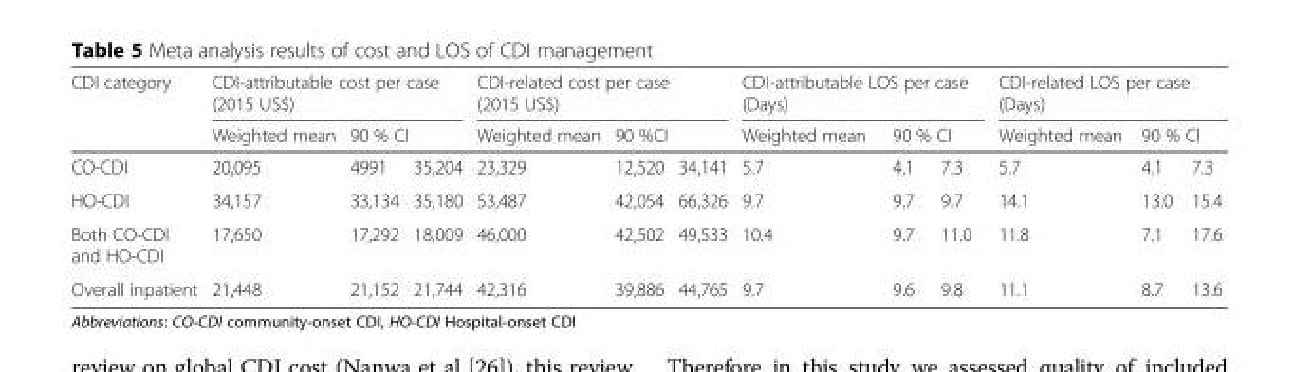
<table><thead><tr><td rowspan="3">CDI category CO-CDI</td><td colspan="3">CDI-attributable cost per case (2015 US$)</td><td colspan="3">CDI-related cost per case (2015 US$)</td><td colspan="3">CDI-attributable LOS per case (Days)</td><td colspan="3">CDI-related LOS per case (Days)</td></tr><tr><td rowspan="2">Weighted mean 20,095</td><td colspan="2">90 % CI</td><td rowspan="2">Weighted mean 23,329</td><td colspan="2">90 %CI</td><td rowspan="2">Weighted mean 5.7</td><td colspan="2">90 % CI</td><td rowspan="2">Weighted mean 5.7</td><td colspan="2">90 % CI</td></tr><tr><td>4991</td><td>35,204</td><td>12,520</td><td>34,141</td><td>4.1</td><td>7.3</td><td>4.1</td><td>7.3</td></tr></thead><tbody><tr><td>HO-CDI</td><td>34,157</td><td>33,134</td><td>35,180</td><td>53,487</td><td>42,054</td><td>66,326</td><td>9.7</td><td>9.7</td><td>9.7</td><td>14.1</td><td>13.0</td><td>15.4</td></tr><tr><td>Both CO-CDI and HO-CDI</td><td>17,650</td><td>17,292</td><td>18,009</td><td>46,000</td><td>42,502</td><td>49,533</td><td>10.4</td><td>9.7</td><td>11.0</td><td>11.8</td><td>7.1</td><td>17.6</td></tr><tr><td>Overall inpatient</td><td>21,448</td><td>21,152</td><td>21,744</td><td>42,316</td><td>39,886</td><td>44,765</td><td>9.7</td><td>9.6</td><td>9.8</td><td>11.1</td><td>8.7</td><td>13.6</td></tr></tbody></table>